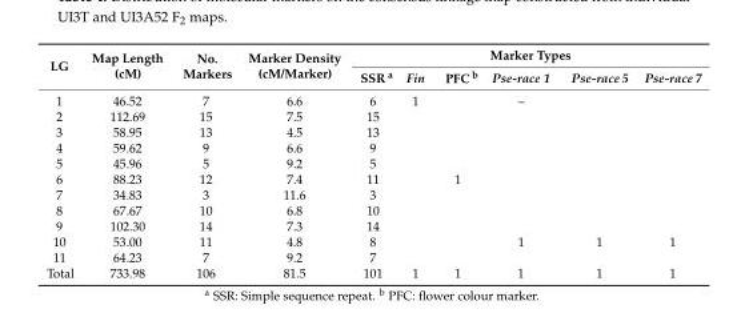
<table><thead><tr><td rowspan="2">LG</td><td rowspan="2">Map Length (cM)</td><td rowspan="2">No. Markers</td><td rowspan="2">Marker Density (cM/Marker)</td><td colspan="6">Marker Types</td></tr><tr><td>SSR <sup>a</sup></td><td>Fin</td><td>PFC <sup>b</sup></td><td>Pse-race 1</td><td>Pse-race 5</td><td>Pse-race 7</td></tr></thead><tbody><tr><td>1</td><td>46.52</td><td>7</td><td>6.6</td><td>6</td><td>1</td><td></td><td>–</td><td></td><td></td></tr><tr><td>2</td><td>112.69</td><td>15</td><td>7.5</td><td>15</td><td></td><td></td><td></td><td></td><td></td></tr><tr><td>3</td><td>58.95</td><td>13</td><td>4.5</td><td>13</td><td></td><td></td><td></td><td></td><td></td></tr><tr><td>4</td><td>59.62</td><td>9</td><td>6.6</td><td>9</td><td></td><td></td><td></td><td></td><td></td></tr><tr><td>5</td><td>45.96</td><td>5</td><td>9.2</td><td>5</td><td></td><td></td><td></td><td></td><td></td></tr><tr><td>6</td><td>88.23</td><td>12</td><td>7.4</td><td>11</td><td></td><td>1</td><td></td><td></td><td></td></tr><tr><td>7</td><td>34.83</td><td>3</td><td>11.6</td><td>3</td><td></td><td></td><td></td><td></td><td></td></tr><tr><td>8</td><td>67.67</td><td>10</td><td>6.8</td><td>10</td><td></td><td></td><td></td><td></td><td></td></tr><tr><td>9</td><td>102.30</td><td>14</td><td>7.3</td><td>14</td><td></td><td></td><td></td><td></td><td></td></tr><tr><td>10</td><td>53.00</td><td>11</td><td>4.8</td><td>8</td><td></td><td></td><td>1</td><td>1</td><td>1</td></tr><tr><td>11</td><td>64.23</td><td>7</td><td>9.2</td><td>7</td><td></td><td></td><td></td><td></td><td></td></tr><tr><td>Total</td><td>733.98</td><td>106</td><td>81.5</td><td>101</td><td>1</td><td>1</td><td>1</td><td>1</td><td>1</td></tr></tbody></table>